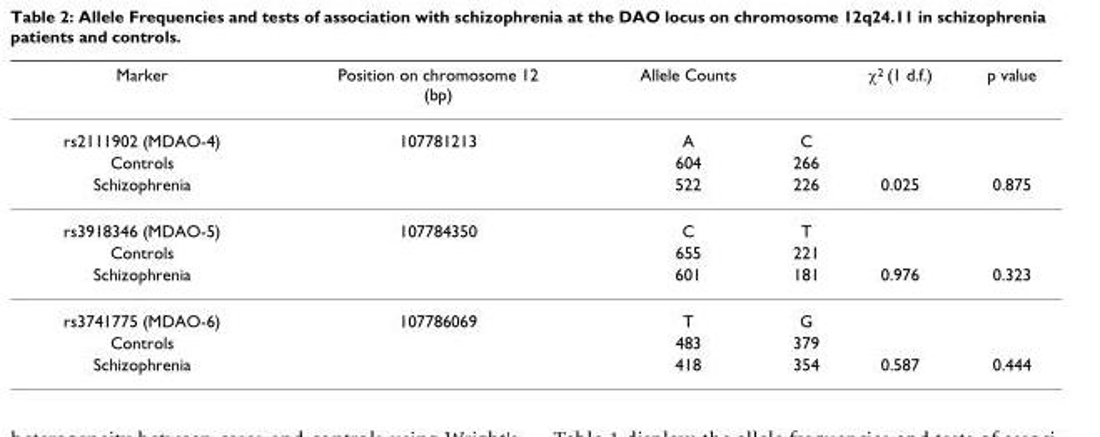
<table><thead><tr><td>Marker</td><td>Position on chromosome 12 (bp)</td><td>Allele Counts</td><td></td><td>χ<sup>2</sup> (1 d.f.)</td><td>p value</td></tr></thead><tbody><tr><td>rs2111902 (MDAO-4)</td><td>107781213</td><td>A</td><td>C</td><td></td><td></td></tr><tr><td>Controls</td><td></td><td>604</td><td>266</td><td></td><td></td></tr><tr><td>Schizophrenia</td><td></td><td>522</td><td>226</td><td>0.025</td><td>0.875</td></tr><tr><td>rs3918346 (MDAO-5)</td><td>107784350</td><td>C</td><td>T</td><td></td><td></td></tr><tr><td>Controls</td><td></td><td>655</td><td>221</td><td></td><td></td></tr><tr><td>Schizophrenia</td><td></td><td>601</td><td>181</td><td>0.976</td><td>0.323</td></tr><tr><td>rs3741775 (MDAO-6)</td><td>107786069</td><td>T</td><td>G</td><td></td><td></td></tr><tr><td>Controls</td><td></td><td>483</td><td>379</td><td></td><td></td></tr><tr><td>Schizophrenia</td><td></td><td>418</td><td>354</td><td>0.587</td><td>0.444</td></tr></tbody></table>